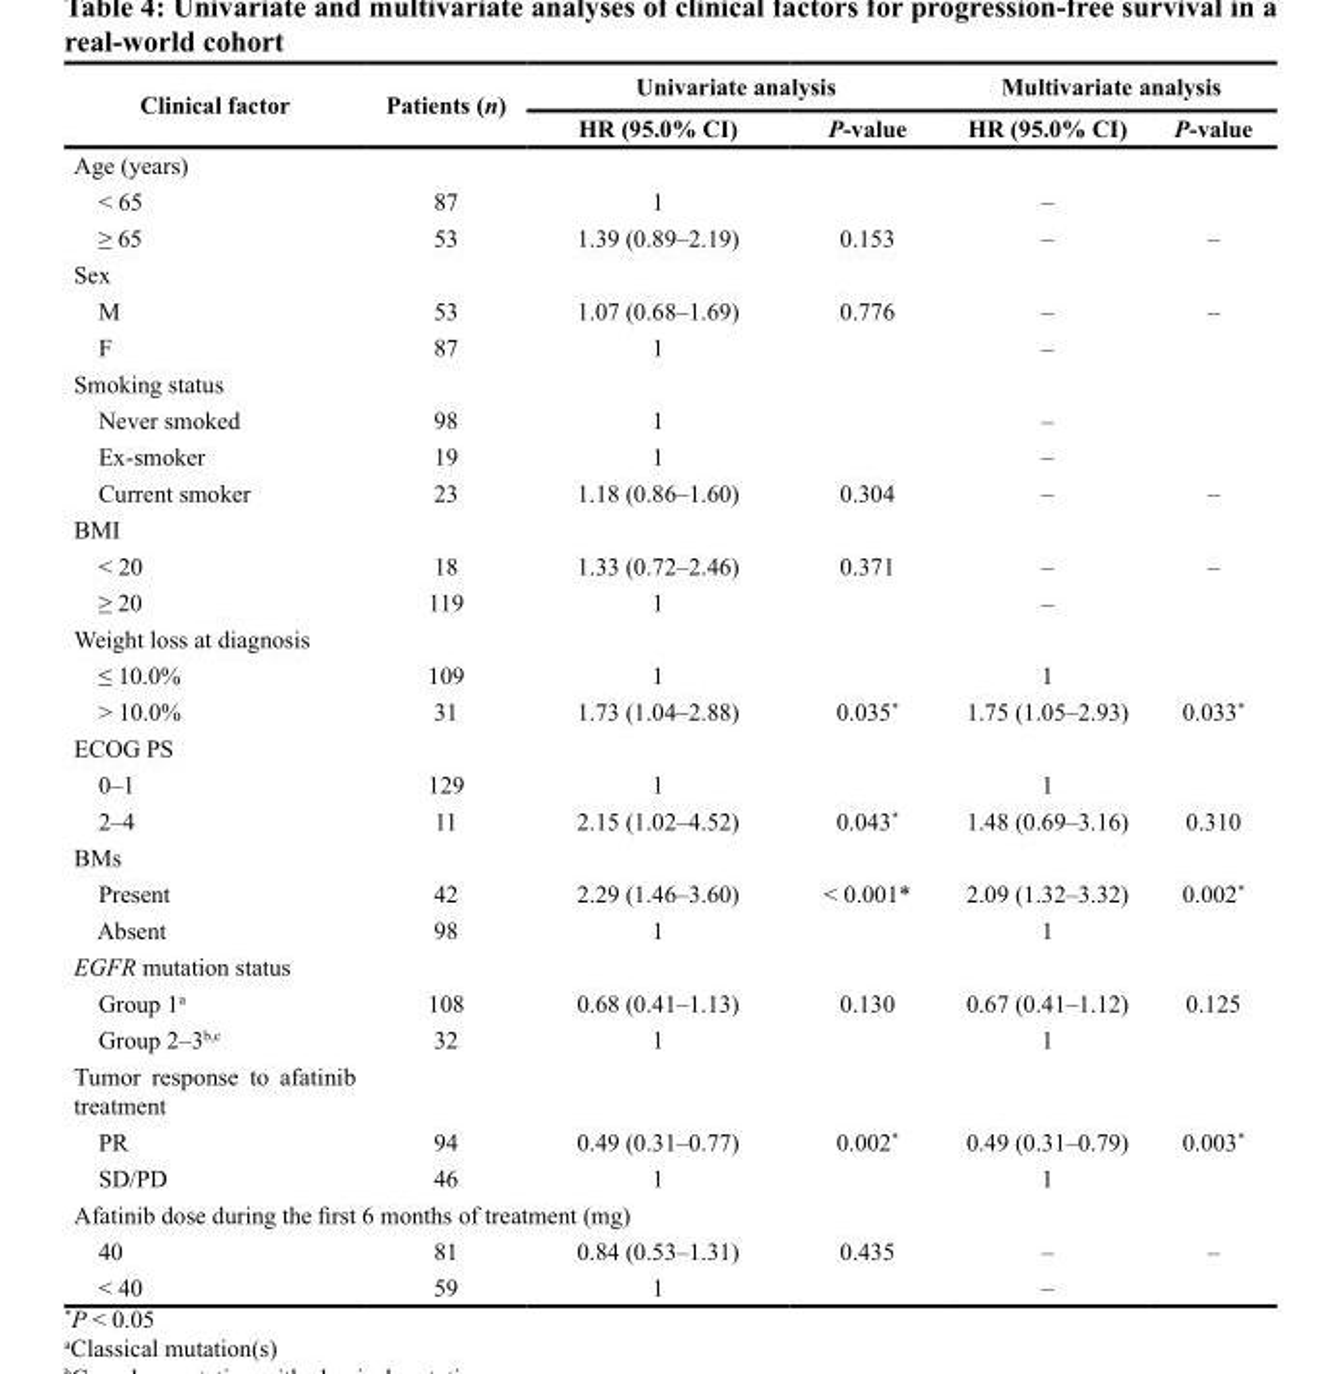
<table><thead><tr><td rowspan="2">Clinical factor</td><td rowspan="2">Patients (n)</td><td colspan="2">Univariate analysis</td><td colspan="2">Multivariate analysis</td></tr><tr><td>HR (95.0% CI)</td><td>P-value</td><td>HR (95.0% CI)</td><td>P-value</td></tr></thead><tbody><tr><td colspan="6">Age (years)</td></tr><tr><td>&lt; 65</td><td>87</td><td>1</td><td></td><td>–</td><td></td></tr><tr><td>≥ 65</td><td>53</td><td>1.39 (0.89–2.19)</td><td>0.153</td><td>–</td><td>–</td></tr><tr><td colspan="6">Sex</td></tr><tr><td>M</td><td>53</td><td>1.07 (0.68–1.69)</td><td>0.776</td><td>–</td><td>–</td></tr><tr><td>F</td><td>87</td><td>1</td><td></td><td>–</td><td></td></tr><tr><td colspan="6">Smoking status</td></tr><tr><td>Never smoked</td><td>98</td><td>1</td><td></td><td>–</td><td></td></tr><tr><td>Ex-smoker</td><td>19</td><td>1</td><td></td><td>–</td><td></td></tr><tr><td>Current smoker</td><td>23</td><td>1.18 (0.86–1.60)</td><td>0.304</td><td>–</td><td>–</td></tr><tr><td colspan="6">BMI</td></tr><tr><td>&lt; 20</td><td>18</td><td>1.33 (0.72–2.46)</td><td>0.371</td><td>–</td><td>–</td></tr><tr><td>≥ 20</td><td>119</td><td>1</td><td></td><td>–</td><td></td></tr><tr><td colspan="6">Weight loss at diagnosis</td></tr><tr><td>≤ 10.0%</td><td>109</td><td>1</td><td></td><td>1</td><td></td></tr><tr><td>&gt; 10.0%</td><td>31</td><td>1.73 (1.04–2.88)</td><td>0.035*</td><td>1.75 (1.05–2.93)</td><td>0.033*</td></tr><tr><td colspan="6">ECOG PS</td></tr><tr><td>0–1</td><td>129</td><td>1</td><td></td><td>1</td><td></td></tr><tr><td>2–4</td><td>11</td><td>2.15 (1.02–4.52)</td><td>0.043*</td><td>1.48 (0.69–3.16)</td><td>0.310</td></tr><tr><td colspan="6">BMs</td></tr><tr><td>Present</td><td>42</td><td>2.29 (1.46–3.60)</td><td>&lt; 0.001*</td><td>2.09 (1.32–3.32)</td><td>0.002*</td></tr><tr><td>Absent</td><td>98</td><td>1</td><td></td><td>1</td><td></td></tr><tr><td colspan="6">EGFR mutation status</td></tr><tr><td>Group 1<sup>a</sup></td><td>108</td><td>0.68 (0.41–1.13)</td><td>0.130</td><td>0.67 (0.41–1.12)</td><td>0.125</td></tr><tr><td>Group 2–3<sup>b,c</sup></td><td>32</td><td>1</td><td></td><td>1</td><td></td></tr><tr><td colspan="6">Tumor response to afatinib treatment</td></tr><tr><td>PR</td><td>94</td><td>0.49 (0.31–0.77)</td><td>0.002*</td><td>0.49 (0.31–0.79)</td><td>0.003*</td></tr><tr><td>SD/PD</td><td>46</td><td>1</td><td></td><td>1</td><td></td></tr><tr><td colspan="6">Afatinib dose during the first 6 months of treatment (mg)</td></tr><tr><td>40</td><td>81</td><td>0.84 (0.53–1.31)</td><td>0.435</td><td>–</td><td>–</td></tr><tr><td>&lt; 40</td><td>59</td><td>1</td><td></td><td>–</td><td></td></tr></tbody></table>